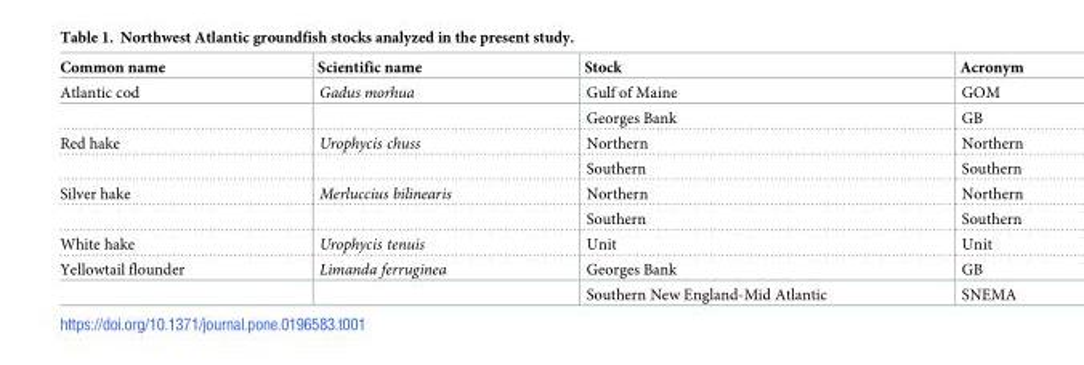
<table><thead><tr><td>Common name</td><td>Scientific name</td><td>Stock</td><td>Acronym</td></tr></thead><tbody><tr><td rowspan="2">Atlantic cod</td><td>Gadus morhua</td><td>Gulf of Maine</td><td>GOM</td></tr><tr><td></td><td>Georges Bank</td><td>GB</td></tr><tr><td rowspan="2">Red hake</td><td>Urophycis chuss</td><td>Northern</td><td>Northern</td></tr><tr><td></td><td>Southern</td><td>Southern</td></tr><tr><td rowspan="2">Silver hake</td><td>Merluccius bilinearis</td><td>Northern</td><td>Northern</td></tr><tr><td></td><td>Southern</td><td>Southern</td></tr><tr><td>White hake</td><td>Urophycis tenuis</td><td>Unit</td><td>Unit</td></tr><tr><td rowspan="2">Yellowtail flounder</td><td>Limanda ferruginea</td><td>Georges Bank</td><td>GB</td></tr><tr><td></td><td>Southern New England-Mid Atlantic</td><td>SNEMA</td></tr></tbody></table>